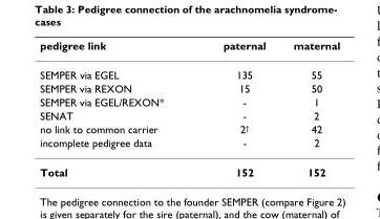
<table><thead><tr><td>pedigree link</td><td>paternal</td><td>maternal</td></tr></thead><tbody><tr><td>SEMPER via EGEL</td><td>135</td><td>55</td></tr><tr><td>SEMPER via REXON</td><td>15</td><td>50</td></tr><tr><td>SEMPER via EGEL/REXON*</td><td>-</td><td>1</td></tr><tr><td>SENAT</td><td>-</td><td>2</td></tr><tr><td>no link to common carrier</td><td>2<sup>†</sup></td><td>42</td></tr><tr><td>incomplete pedigree data</td><td>-</td><td>2</td></tr><tr><td>Total</td><td>152</td><td>152</td></tr></tbody></table>